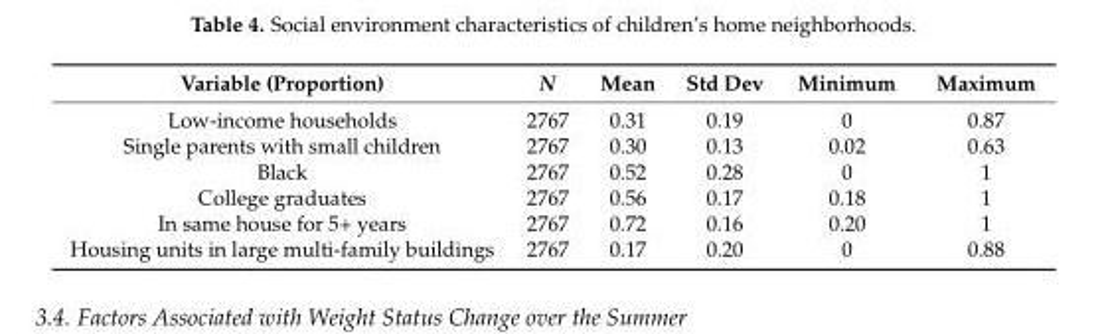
<table><thead><tr><td>Variable (Proportion)</td><td>N</td><td>Mean</td><td>Std Dev</td><td>Minimum</td><td>Maximum</td></tr></thead><tbody><tr><td>Low-income households</td><td>2767</td><td>0.31</td><td>0.19</td><td>0</td><td>0.87</td></tr><tr><td>Single parents with small children</td><td>2767</td><td>0.30</td><td>0.13</td><td>0.02</td><td>0.63</td></tr><tr><td>Black</td><td>2767</td><td>0.52</td><td>0.28</td><td>0</td><td>1</td></tr><tr><td>College graduates</td><td>2767</td><td>0.56</td><td>0.17</td><td>0.18</td><td>1</td></tr><tr><td>In same house for 5+ years</td><td>2767</td><td>0.72</td><td>0.16</td><td>0.20</td><td>1</td></tr><tr><td>Housing units in large multi-family buildings</td><td>2767</td><td>0.17</td><td>0.20</td><td>0</td><td>0.88</td></tr></tbody></table>